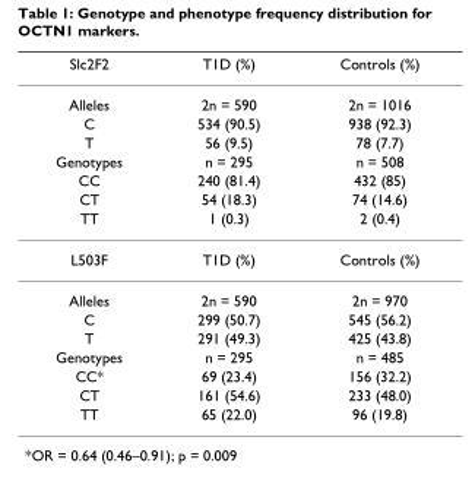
<table><thead><tr><td>Slc2F2</td><td>T1D (%)</td><td>Controls (%)</td></tr></thead><tbody><tr><td>Alleles</td><td>2n = 590</td><td>2n = 1016</td></tr><tr><td>C</td><td>534 (90.5)</td><td>938 (92.3)</td></tr><tr><td>T</td><td>56 (9.5)</td><td>78 (7.7)</td></tr><tr><td>Genotypes</td><td>n = 295</td><td>n = 508</td></tr><tr><td>CC</td><td>240 (81.4)</td><td>432 (85)</td></tr><tr><td>CT</td><td>54 (18.3)</td><td>74 (14.6)</td></tr><tr><td>TT</td><td>1 (0.3)</td><td>2 (0.4)</td></tr><tr><td>L503F</td><td>T1D (%)</td><td>Controls (%)</td></tr><tr><td>Alleles</td><td>2n = 590</td><td>2n = 970</td></tr><tr><td>C</td><td>299 (50.7)</td><td>545 (56.2)</td></tr><tr><td>T</td><td>291 (49.3)</td><td>425 (43.8)</td></tr><tr><td>Genotypes</td><td>n = 295</td><td>n = 485</td></tr><tr><td>CC*</td><td>69 (23.4)</td><td>156 (32.2)</td></tr><tr><td>CT</td><td>161 (54.6)</td><td>233 (48.0)</td></tr><tr><td>TT</td><td>65 (22.0)</td><td>96 (19.8)</td></tr></tbody></table>